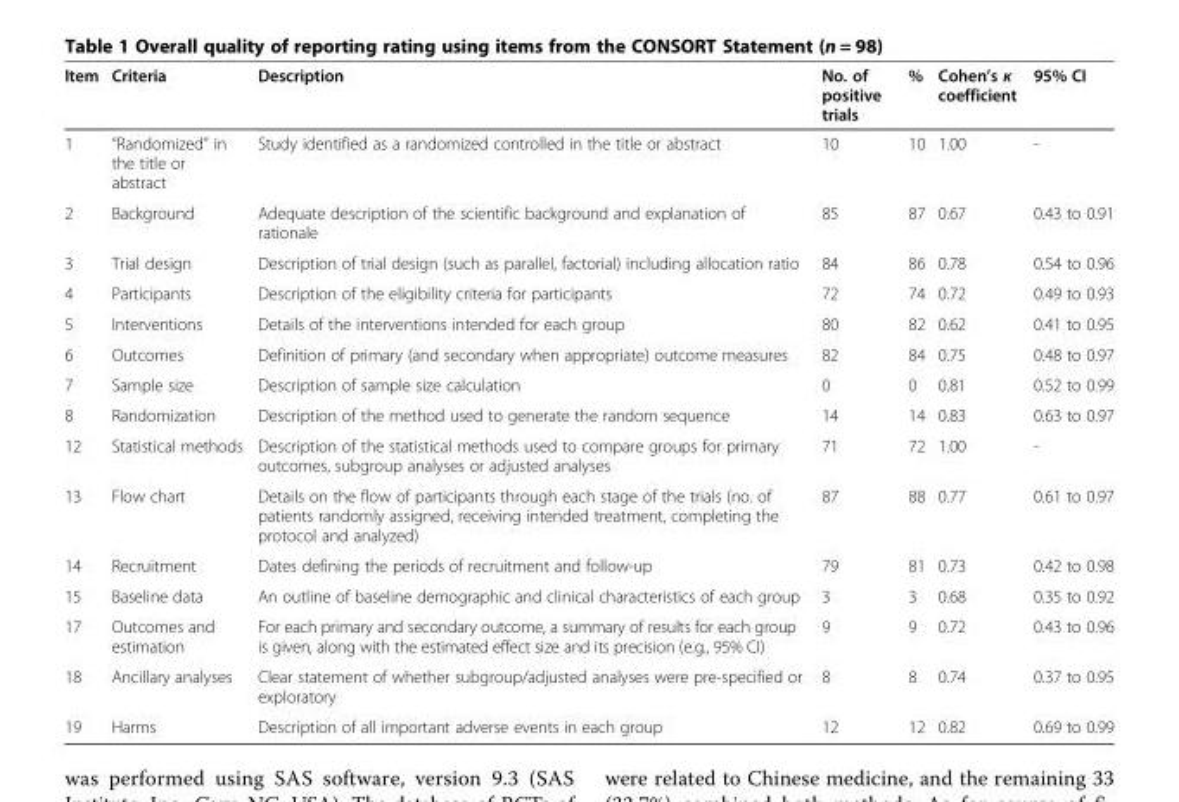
<table><thead><tr><td>Item</td><td>Criteria</td><td>Description</td><td>No. of positive trials</td><td>%</td><td>Cohen’s к coefficient</td><td>95% CI</td></tr></thead><tbody><tr><td>1</td><td>“Randomized” in the title or abstract</td><td>Study identified as a randomized controlled in the title or abstract</td><td>10</td><td>10</td><td>1.00</td><td>-</td></tr><tr><td>2</td><td>Background</td><td>Adequate description of the scientific background and explanation of rationale</td><td>85</td><td>87</td><td>0.67</td><td>0.43 to 0.91</td></tr><tr><td>3</td><td>Trial design</td><td>Description of trial design (such as parallel, factorial) including allocation ratio</td><td>84</td><td>86</td><td>0.78</td><td>0.54 to 0.96</td></tr><tr><td>4</td><td>Participants</td><td>Description of the eligibility criteria for participants</td><td>72</td><td>74</td><td>0.72</td><td>0.49 to 0.93</td></tr><tr><td>5</td><td>Interventions</td><td>Details of the interventions intended for each group</td><td>80</td><td>82</td><td>0.62</td><td>0.41 to 0.95</td></tr><tr><td>6</td><td>Outcomes</td><td>Definition of primary (and secondary when appropriate) outcome measures</td><td>82</td><td>84</td><td>0.75</td><td>0.48 to 0.97</td></tr><tr><td>7</td><td>Sample size</td><td>Description of sample size calculation</td><td>0</td><td>0</td><td>0.81</td><td>0.52 to 0.99</td></tr><tr><td>8</td><td>Randomization</td><td>Description of the method used to generate the random sequence</td><td>14</td><td>14</td><td>0.83</td><td>0.63 to 0.97</td></tr><tr><td>12</td><td>Statistical methods</td><td>Description of the statistical methods used to compare groups for primary outcomes, subgroup analyses or adjusted analyses</td><td>71</td><td>72</td><td>1.00</td><td>-</td></tr><tr><td>13</td><td>Flow chart</td><td>Details on the flow of participants through each stage of the trials (no. of patients randomly assigned, receiving intended treatment, completing the protocol and analyzed)</td><td>87</td><td>88</td><td>0.77</td><td>0.61 to 0.97</td></tr><tr><td>14</td><td>Recruitment</td><td>Dates defining the periods of recruitment and follow-up</td><td>79</td><td>81</td><td>0.73</td><td>0.42 to 0.98</td></tr><tr><td>15</td><td>Baseline data</td><td>An outline of baseline demographic and clinical characteristics of each group</td><td>3</td><td>3</td><td>0.68</td><td>0.35 to 0.92</td></tr><tr><td>17</td><td>Outcomes and estimation</td><td>For each primary and secondary outcome, a summary of results for each group is given, along with the estimated effect size and its precision (e.g., 95% CI)</td><td>9</td><td>9</td><td>0.72</td><td>0.43 to 0.96</td></tr><tr><td>18</td><td>Ancillary analyses</td><td>Clear statement of whether subgroup/adjusted analyses were pre-specified or exploratory</td><td>8</td><td>8</td><td>0.74</td><td>0.37 to 0.95</td></tr><tr><td>19</td><td>Harms</td><td>Description of all important adverse events in each group</td><td>12</td><td>12</td><td>0.82</td><td>0.69 to 0.99</td></tr></tbody></table>